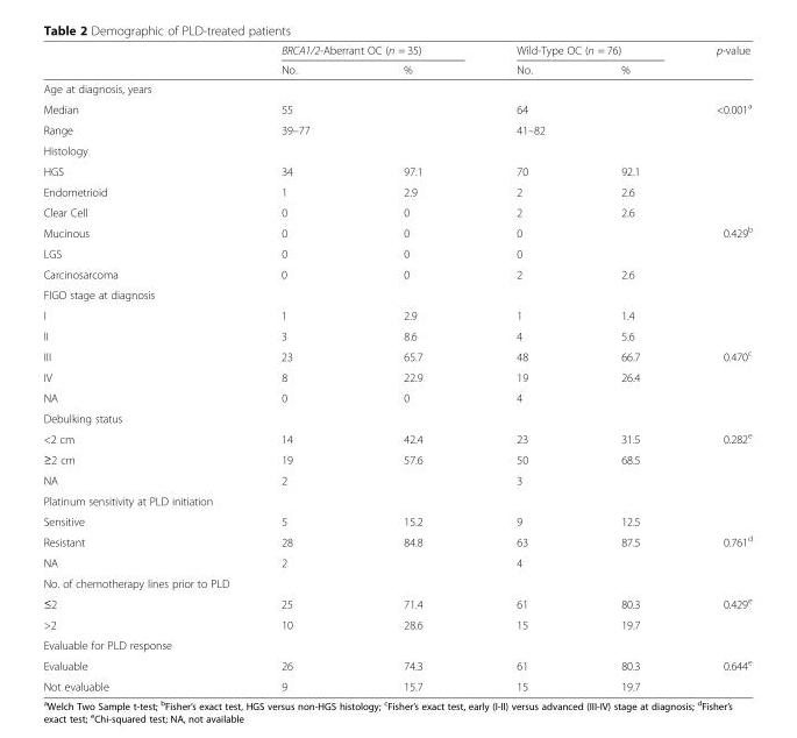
<table><thead><tr><td rowspan="2"></td><td colspan="2">BRCA1/2-Aberrant OC (n = 35)</td><td colspan="2">Wild-Type OC (n = 76)</td><td rowspan="2">p-value</td></tr><tr><td>No.</td><td>%</td><td>No.</td><td>%</td></tr></thead><tbody><tr><td colspan="6">Age at diagnosis, years</td></tr><tr><td>Median</td><td>55</td><td></td><td>64</td><td></td><td>&lt;0.001<sup>a</sup></td></tr><tr><td>Range</td><td>39–77</td><td></td><td>41–82</td><td></td><td></td></tr><tr><td colspan="6">Histology</td></tr><tr><td>HGS</td><td>34</td><td>97.1</td><td>70</td><td>92.1</td><td></td></tr><tr><td>Endometrioid</td><td>1</td><td>2.9</td><td>2</td><td>2.6</td><td></td></tr><tr><td>Clear Cell</td><td>0</td><td>0</td><td>2</td><td>2.6</td><td></td></tr><tr><td>Mucinous</td><td>0</td><td>0</td><td>0</td><td></td><td>0.429<sup>b</sup></td></tr><tr><td>LGS</td><td>0</td><td>0</td><td>0</td><td></td><td></td></tr><tr><td>Carcinosarcoma</td><td>0</td><td>0</td><td>2</td><td>2.6</td><td></td></tr><tr><td colspan="6">FIGO stage at diagnosis</td></tr><tr><td>I</td><td>1</td><td>2.9</td><td>1</td><td>1.4</td><td></td></tr><tr><td>II</td><td>3</td><td>8.6</td><td>4</td><td>5.6</td><td></td></tr><tr><td>III</td><td>23</td><td>65.7</td><td>48</td><td>66.7</td><td>0.470<sup>c</sup></td></tr><tr><td>IV</td><td>8</td><td>22.9</td><td>19</td><td>26.4</td><td></td></tr><tr><td>NA</td><td>0</td><td>0</td><td>4</td><td></td><td></td></tr><tr><td colspan="6">Debulking status</td></tr><tr><td>&lt;2 cm</td><td>14</td><td>42.4</td><td>23</td><td>31.5</td><td>0.282<sup>e</sup></td></tr><tr><td>≥2 cm</td><td>19</td><td>57.6</td><td>50</td><td>68.5</td><td></td></tr><tr><td>NA</td><td>2</td><td></td><td>3</td><td></td><td></td></tr><tr><td colspan="6">Platinum sensitivity at PLD initiation</td></tr><tr><td>Sensitive</td><td>5</td><td>15.2</td><td>9</td><td>12.5</td><td></td></tr><tr><td>Resistant</td><td>28</td><td>84.8</td><td>63</td><td>87.5</td><td>0.761<sup>d</sup></td></tr><tr><td>NA</td><td>2</td><td></td><td>4</td><td></td><td></td></tr><tr><td colspan="6">No. of chemotherapy lines prior to PLD</td></tr><tr><td>≤2</td><td>25</td><td>71.4</td><td>61</td><td>80.3</td><td>0.429<sup>e</sup></td></tr><tr><td>&gt;2</td><td>10</td><td>28.6</td><td>15</td><td>19.7</td><td></td></tr><tr><td colspan="6">Evaluable for PLD response</td></tr><tr><td>Evaluable</td><td>26</td><td>74.3</td><td>61</td><td>80.3</td><td>0.644<sup>e</sup></td></tr><tr><td>Not evaluable</td><td>9</td><td>15.7</td><td>15</td><td>19.7</td><td></td></tr></tbody></table>